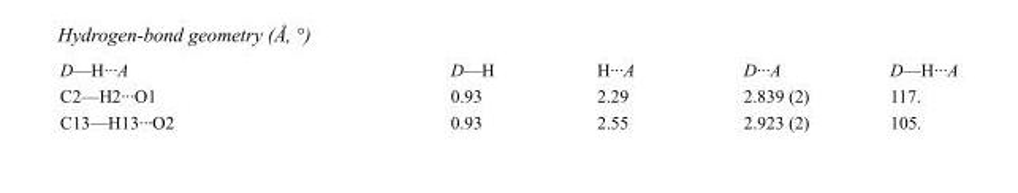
<table><tbody><tr><td>D—H···A</td><td>D—H</td><td>H···A</td><td>D···A</td><td>D—H···A</td></tr><tr><td>C2—H2···O1</td><td>0.93</td><td>2.29</td><td>2.839 (2)</td><td>117.</td></tr><tr><td>C13—H13···O2</td><td>0.93</td><td>2.55</td><td>2.923 (2)</td><td>105.</td></tr></tbody></table>